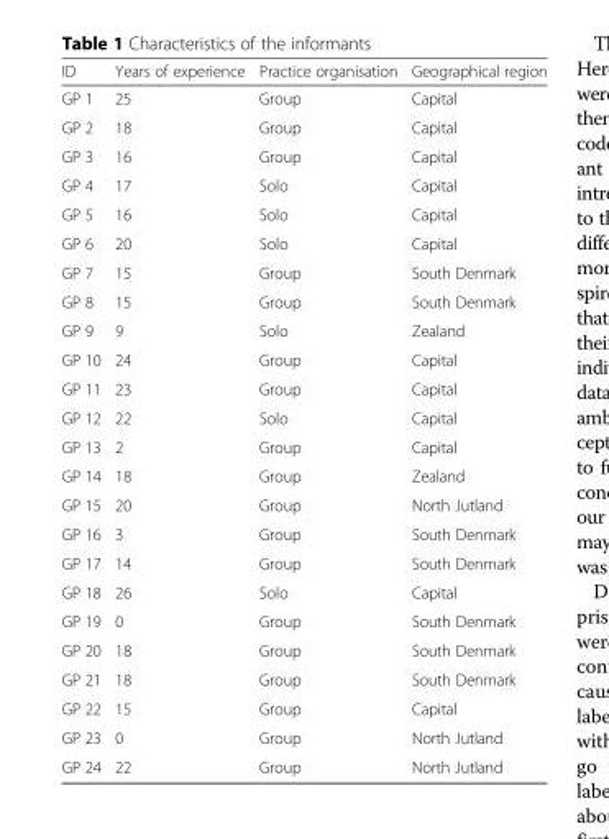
<table><thead><tr><td>ID</td><td>Years of experience</td><td>Practice organisation</td><td>Geographical region</td></tr></thead><tbody><tr><td>GP 1</td><td>25</td><td>Group</td><td>Capital</td></tr><tr><td>GP 2</td><td>18</td><td>Group</td><td>Capital</td></tr><tr><td>GP 3</td><td>16</td><td>Group</td><td>Capital</td></tr><tr><td>GP 4</td><td>17</td><td>Solo</td><td>Capital</td></tr><tr><td>GP 5</td><td>16</td><td>Solo</td><td>Capital</td></tr><tr><td>GP 6</td><td>20</td><td>Solo</td><td>Capital</td></tr><tr><td>GP 7</td><td>15</td><td>Group</td><td>South Denmark</td></tr><tr><td>GP 8</td><td>15</td><td>Group</td><td>South Denmark</td></tr><tr><td>GP 9</td><td>9</td><td>Solo</td><td>Zealand</td></tr><tr><td>GP 10</td><td>24</td><td>Group</td><td>Capital</td></tr><tr><td>GP 11</td><td>23</td><td>Group</td><td>Capital</td></tr><tr><td>GP 12</td><td>22</td><td>Solo</td><td>Capital</td></tr><tr><td>GP 13</td><td>2</td><td>Group</td><td>Capital</td></tr><tr><td>GP 14</td><td>18</td><td>Group</td><td>Zealand</td></tr><tr><td>GP 15</td><td>20</td><td>Group</td><td>North Jutland</td></tr><tr><td>GP 16</td><td>3</td><td>Group</td><td>South Denmark</td></tr><tr><td>GP 17</td><td>14</td><td>Group</td><td>South Denmark</td></tr><tr><td>GP 18</td><td>26</td><td>Solo</td><td>Capital</td></tr><tr><td>GP 19</td><td>0</td><td>Group</td><td>South Denmark</td></tr><tr><td>GP 20</td><td>18</td><td>Group</td><td>South Denmark</td></tr><tr><td>GP 21</td><td>18</td><td>Group</td><td>South Denmark</td></tr><tr><td>GP 22</td><td>15</td><td>Group</td><td>Capital</td></tr><tr><td>GP 23</td><td>0</td><td>Group</td><td>North Jutland</td></tr><tr><td>GP 24</td><td>22</td><td>Group</td><td>North Jutland</td></tr></tbody></table>